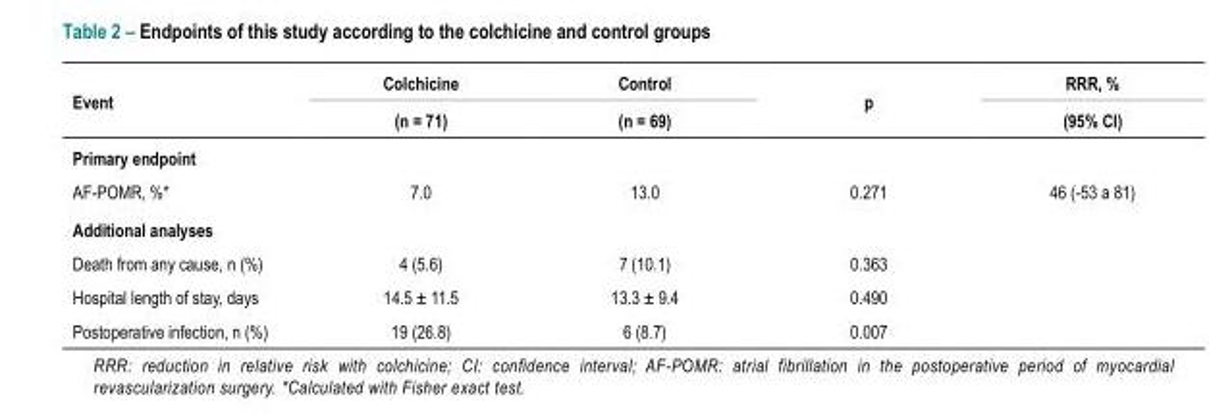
<table><thead><tr><td rowspan="2">Event</td><td rowspan="2">Colchicine (n = 71)</td><td rowspan="2">Control (n = 69)</td><td rowspan="2">p</td><td rowspan="2">RRR, % (95% CI)</td></tr><tr></tr></thead><tbody><tr><td colspan="5">Primary endpoint</td></tr><tr><td>AF-POMR, %*</td><td>7.0</td><td>13.0</td><td>0.271</td><td>46 (-53 a 81)</td></tr><tr><td colspan="5">Additional analyses</td></tr><tr><td>Death from any cause, n (%)</td><td>4 (5.6)</td><td>7 (10.1)</td><td>0.363</td><td></td></tr><tr><td>Hospital length of stay, days</td><td>14.5 ± 11.5</td><td>13.3 ± 9.4</td><td>0.490</td><td></td></tr><tr><td>Postoperative infection, n (%)</td><td>19 (26.8)</td><td>6 (8.7)</td><td>0.007</td><td></td></tr></tbody></table>